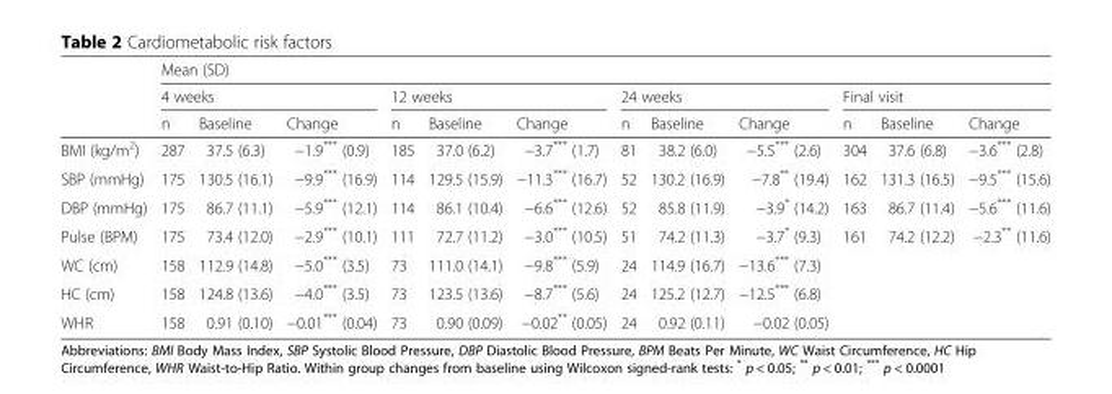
<table><thead><tr><td rowspan="3"></td><td colspan="12">Mean (SD)</td></tr><tr><td colspan="3">4 weeks</td><td colspan="3">12 weeks</td><td colspan="3">24 weeks</td><td colspan="3">Final visit</td></tr><tr><td>n</td><td>Baseline</td><td>Change</td><td>n</td><td>Baseline</td><td>Change</td><td>n</td><td>Baseline</td><td>Change</td><td>n</td><td>Baseline</td><td>Change</td></tr></thead><tbody><tr><td>BMI (kg/m<sup>2</sup>)</td><td>287</td><td>37.5 (6.3)</td><td>−1.9*** (0.9)</td><td>185</td><td>37.0 (6.2)</td><td>−3.7*** (1.7)</td><td>81</td><td>38.2 (6.0)</td><td>−5.5*** (2.6)</td><td>304</td><td>37.6 (6.8)</td><td>−3.6*** (2.8)</td></tr><tr><td>SBP (mmHg)</td><td>175</td><td>130.5 (16.1)</td><td>−9.9*** (16.9)</td><td>114</td><td>129.5 (15.9)</td><td>−11.3*** (16.7)</td><td>52</td><td>130.2 (16.9)</td><td>−7.8** (19.4)</td><td>162</td><td>131.3 (16.5)</td><td>−9.5*** (15.6)</td></tr><tr><td>DBP (mmHg)</td><td>175</td><td>86.7 (11.1)</td><td>−5.9*** (12.1)</td><td>114</td><td>86.1 (10.4)</td><td>−6.6*** (12.6)</td><td>52</td><td>85.8 (11.9)</td><td>−3.9* (14.2)</td><td>163</td><td>86.7 (11.4)</td><td>−5.6*** (11.6)</td></tr><tr><td>Pulse (BPM)</td><td>175</td><td>73.4 (12.0)</td><td>−2.9*** (10.1)</td><td>111</td><td>72.7 (11.2)</td><td>−3.0*** (10.5)</td><td>51</td><td>74.2 (11.3)</td><td>−3.7* (9.3)</td><td>161</td><td>74.2 (12.2)</td><td>−2.3** (11.6)</td></tr><tr><td>WC (cm)</td><td>158</td><td>112.9 (14.8)</td><td>−5.0*** (3.5)</td><td>73</td><td>111.0 (14.1)</td><td>−9.8*** (5.9)</td><td>24</td><td>114.9 (16.7)</td><td>−13.6*** (7.3)</td><td></td><td></td><td></td></tr><tr><td>HC (cm)</td><td>158</td><td>124.8 (13.6)</td><td>−4.0*** (3.5)</td><td>73</td><td>123.5 (13.6)</td><td>−8.7*** (5.6)</td><td>24</td><td>125.2 (12.7)</td><td>−12.5*** (6.8)</td><td></td><td></td><td></td></tr><tr><td>WHR</td><td>158</td><td>0.91 (0.10)</td><td>−0.01*** (0.04)</td><td>73</td><td>0.90 (0.09)</td><td>−0.02** (0.05)</td><td>24</td><td>0.92 (0.11)</td><td>−0.02 (0.05)</td><td></td><td></td><td></td></tr></tbody></table>